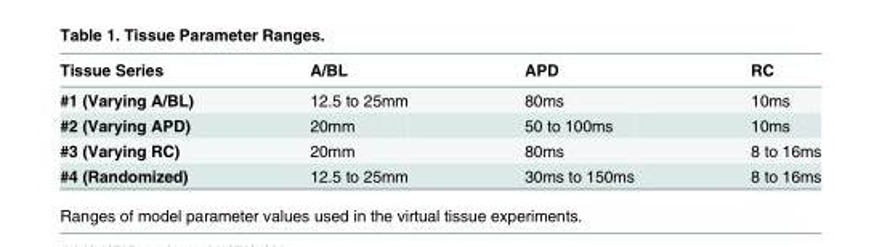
<table><thead><tr><td>Tissue Series</td><td>A/BL</td><td>APD</td><td>RC</td></tr></thead><tbody><tr><td>#1 (Varying A/BL)</td><td>12.5 to 25mm</td><td>80ms</td><td>10ms</td></tr><tr><td>#2 (Varying APD)</td><td>20mm</td><td>50 to 100ms</td><td>10ms</td></tr><tr><td>#3 (Varying RC)</td><td>20mm</td><td>80ms</td><td>8 to 16ms</td></tr><tr><td>#4 (Randomized)</td><td>12.5 to 25mm</td><td>30ms to 150ms</td><td>8 to 16ms</td></tr></tbody></table>